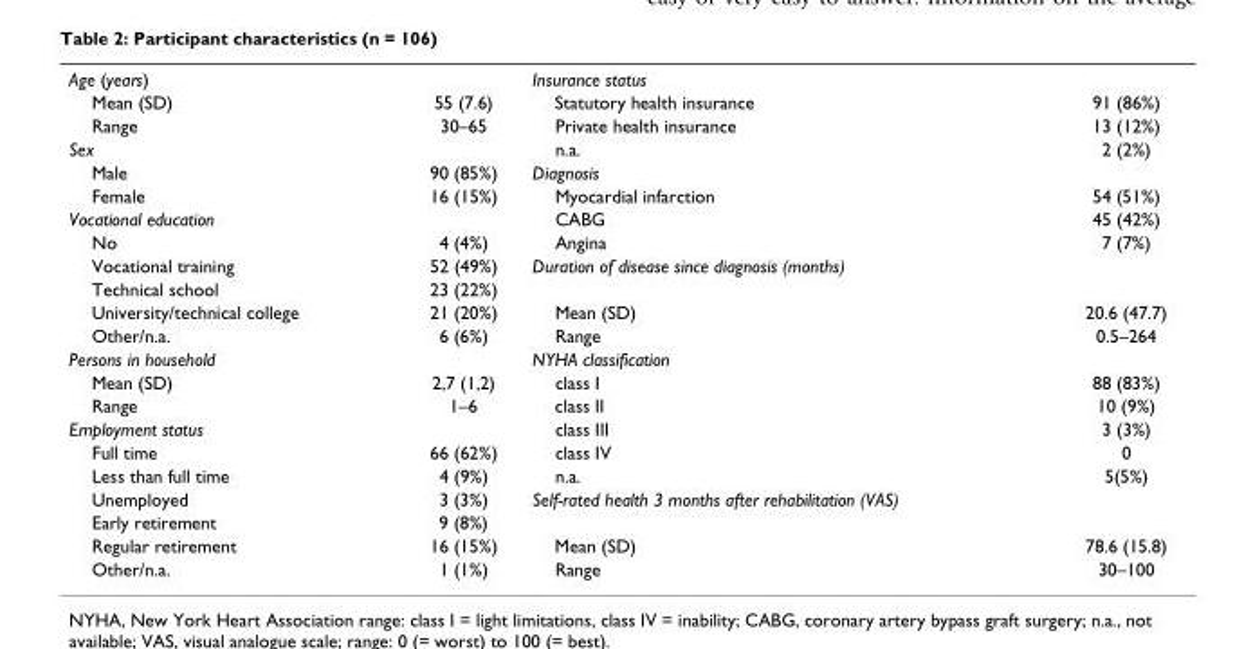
<table><tbody><tr><td>Age (years)</td><td></td><td>Insurance status</td><td></td></tr><tr><td>Mean (SD)</td><td>55 (7.6)</td><td>Statutory health insurance</td><td>91 (86%)</td></tr><tr><td>Range</td><td>30–65</td><td>Private health insurance</td><td>13 (12%)</td></tr><tr><td>Sex</td><td></td><td>n.a.</td><td>2 (2%)</td></tr><tr><td>Male</td><td>90 (85%)</td><td>Diagnosis</td><td></td></tr><tr><td>Female</td><td>16 (15%)</td><td>Myocardial infarction</td><td>54 (51%)</td></tr><tr><td>Vocational education</td><td></td><td>CABG</td><td>45 (42%)</td></tr><tr><td>No</td><td>4 (4%)</td><td>Angina</td><td>7 (7%)</td></tr><tr><td>Vocational training</td><td>52 (49%)</td><td>Duration of disease since diagnosis (months)</td><td></td></tr><tr><td>Technical school</td><td>23 (22%)</td><td></td><td></td></tr><tr><td>University/technical college</td><td>21 (20%)</td><td>Mean (SD)</td><td>20.6 (47.7)</td></tr><tr><td>Other/n.a.</td><td>6 (6%)</td><td>Range</td><td>0.5–264</td></tr><tr><td>Persons in household</td><td></td><td>NYHA classification</td><td></td></tr><tr><td>Mean (SD)</td><td>2,7 (1,2)</td><td>class I</td><td>88 (83%)</td></tr><tr><td>Range</td><td>1–6</td><td>class II</td><td>10 (9%)</td></tr><tr><td>Employment status</td><td></td><td>class III</td><td>3 (3%)</td></tr><tr><td>Full time</td><td>66 (62%)</td><td>class IV</td><td>0</td></tr><tr><td>Less than full time</td><td>4 (9%)</td><td>n.a.</td><td>5(5%)</td></tr><tr><td>Unemployed</td><td>3 (3%)</td><td>Self-rated health 3 months after rehabilitation (VAS)</td><td></td></tr><tr><td>Early retirement</td><td>9 (8%)</td><td></td><td></td></tr><tr><td>Regular retirement</td><td>16 (15%)</td><td>Mean (SD)</td><td>78.6 (15.8)</td></tr><tr><td>Other/n.a.</td><td>1 (1%)</td><td>Range</td><td>30–100</td></tr></tbody></table>